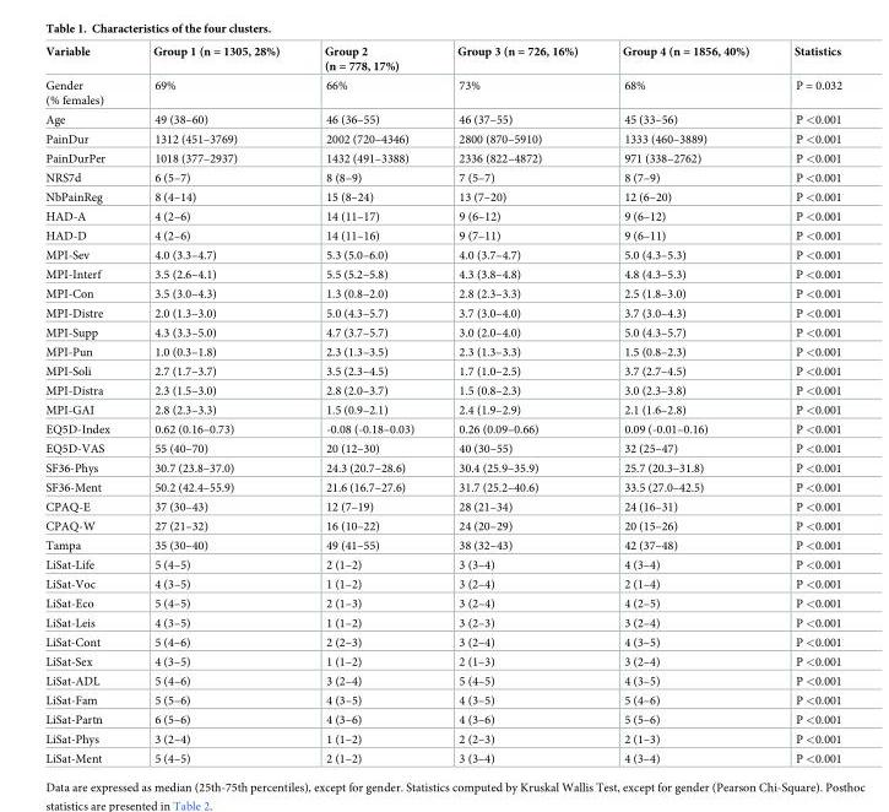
<table><thead><tr><td>Variable</td><td>Group 1 (n = 1305, 28%)</td><td>Group 2 (n = 778, 17%)</td><td>Group 3 (n = 726, 16%)</td><td>Group 4 (n = 1856, 40%)</td><td>Statistics</td></tr></thead><tbody><tr><td>Gender (% females)</td><td>69%</td><td>66%</td><td>73%</td><td>68%</td><td>P = 0.032</td></tr><tr><td>Age</td><td>49 (38–60)</td><td>46 (36–55)</td><td>46 (37–55)</td><td>45 (33–56)</td><td>P &lt;0.001</td></tr><tr><td>PainDur</td><td>1312 (451–3769)</td><td>2002 (720–4346)</td><td>2800 (870–5910)</td><td>1333 (460–3889)</td><td>P &lt;0.001</td></tr><tr><td>PainDurPer</td><td>1018 (377–2937)</td><td>1432 (491–3388)</td><td>2336 (822–4872)</td><td>971 (338–2762)</td><td>P &lt;0.001</td></tr><tr><td>NRS7d</td><td>6 (5–7)</td><td>8 (8–9)</td><td>7 (5–7)</td><td>8 (7–9)</td><td>P &lt;0.001</td></tr><tr><td>NbPainReg</td><td>8 (4–14)</td><td>15 (8–24)</td><td>13 (7–20)</td><td>12 (6–20)</td><td>P &lt;0.001</td></tr><tr><td>HAD-A</td><td>4 (2–6)</td><td>14 (11–17)</td><td>9 (6–12)</td><td>9 (6–12)</td><td>P &lt;0.001</td></tr><tr><td>HAD-D</td><td>4 (2–6)</td><td>14 (11–16)</td><td>9 (7–11)</td><td>9 (6–11)</td><td>P &lt;0.001</td></tr><tr><td>MPI-Sev</td><td>4.0 (3.3–4.7)</td><td>5.3 (5.0–6.0)</td><td>4.0 (3.7–4.7)</td><td>5.0 (4.3–5.3)</td><td>P &lt;0.001</td></tr><tr><td>MPI-Interf</td><td>3.5 (2.6–4.1)</td><td>5.5 (5.2–5.8)</td><td>4.3 (3.8–4.8)</td><td>4.8 (4.3–5.3)</td><td>P &lt;0.001</td></tr><tr><td>MPI-Con</td><td>3.5 (3.0–4.3)</td><td>1.3 (0.8–2.0)</td><td>2.8 (2.3–3.3)</td><td>2.5 (1.8–3.0)</td><td>P &lt;0.001</td></tr><tr><td>MPI-Distre</td><td>2.0 (1.3–3.0)</td><td>5.0 (4.3–5.7)</td><td>3.7 (3.0–4.0)</td><td>3.7 (3.0–4.3)</td><td>P &lt;0.001</td></tr><tr><td>MPI-Supp</td><td>4.3 (3.3–5.0)</td><td>4.7 (3.7–5.7)</td><td>3.0 (2.0–4.0)</td><td>5.0 (4.3–5.7)</td><td>P &lt;0.001</td></tr><tr><td>MPI-Pun</td><td>1.0 (0.3–1.8)</td><td>2.3 (1.3–3.5)</td><td>2.3 (1.3–3.3)</td><td>1.5 (0.8–2.3)</td><td>P &lt;0.001</td></tr><tr><td>MPI-Soli</td><td>2.7 (1.7–3.7)</td><td>3.5 (2.3–4.5)</td><td>1.7 (1.0–2.5)</td><td>3.7 (2.7–4.5)</td><td>P &lt;0.001</td></tr><tr><td>MPI-Distra</td><td>2.3 (1.5–3.0)</td><td>2.8 (2.0–3.7)</td><td>1.5 (0.8–2.3)</td><td>3.0 (2.3–3.8)</td><td>P &lt;0.001</td></tr><tr><td>MPI-GAI</td><td>2.8 (2.3–3.3)</td><td>1.5 (0.9–2.1)</td><td>2.4 (1.9–2.9)</td><td>2.1 (1.6–2.8)</td><td>P &lt;0.001</td></tr><tr><td>EQ5D-Index</td><td>0.62 (0.16–0.73)</td><td>-0.08 (-0.18–0.03)</td><td>0.26 (0.09–0.66)</td><td>0.09 (-0.01–0.16)</td><td>P &lt;0.001</td></tr><tr><td>EQ5D-VAS</td><td>55 (40–70)</td><td>20 (12–30)</td><td>40 (30–55)</td><td>32 (25–47)</td><td>P &lt;0.001</td></tr><tr><td>SF36-Phys</td><td>30.7 (23.8–37.0)</td><td>24.3 (20.7–28.6)</td><td>30.4 (25.9–35.9)</td><td>25.7 (20.3–31.8)</td><td>P &lt;0.001</td></tr><tr><td>SF36-Ment</td><td>50.2 (42.4–55.9)</td><td>21.6 (16.7–27.6)</td><td>31.7 (25.2–40.6)</td><td>33.5 (27.0–42.5)</td><td>P &lt;0.001</td></tr><tr><td>CPAQ-E</td><td>37 (30–43)</td><td>12 (7–19)</td><td>28 (21–34)</td><td>24 (16–31)</td><td>P &lt;0.001</td></tr><tr><td>CPAQ-W</td><td>27 (21–32)</td><td>16 (10–22)</td><td>24 (20–29)</td><td>20 (15–26)</td><td>P &lt;0.001</td></tr><tr><td>Tampa</td><td>35 (30–40)</td><td>49 (41–55)</td><td>38 (32–43)</td><td>42 (37–48)</td><td>P &lt;0.001</td></tr><tr><td>LiSat-Life</td><td>5 (4–5)</td><td>2 (1–2)</td><td>3 (3–4)</td><td>4 (3–4)</td><td>P &lt;0.001</td></tr><tr><td>LiSat-Voc</td><td>4 (3–5)</td><td>1 (1–2)</td><td>3 (2–4)</td><td>2 (1–4)</td><td>P &lt;0.001</td></tr><tr><td>LiSat-Eco</td><td>5 (4–5)</td><td>2 (1–3)</td><td>3 (2–4)</td><td>4 (2–5)</td><td>P &lt;0.001</td></tr><tr><td>LiSat-Leis</td><td>4 (3–5)</td><td>1 (1–2)</td><td>3 (2–3)</td><td>3 (2–4)</td><td>P &lt;0.001</td></tr><tr><td>LiSat-Cont</td><td>5 (4–6)</td><td>2 (2–3)</td><td>3 (2–4)</td><td>4 (3–5)</td><td>P &lt;0.001</td></tr><tr><td>LiSat-Sex</td><td>4 (3–5)</td><td>1 (1–2)</td><td>2 (1–3)</td><td>3 (2–4)</td><td>P &lt;0.001</td></tr><tr><td>LiSat-ADL</td><td>5 (4–6)</td><td>3 (2–4)</td><td>5 (4–5)</td><td>4 (3–5)</td><td>P &lt;0.001</td></tr><tr><td>LiSat-Fam</td><td>5 (5–6)</td><td>4 (3–5)</td><td>4 (3–5)</td><td>5 (4–6)</td><td>P &lt;0.001</td></tr><tr><td>LiSat-Partn</td><td>6 (5–6)</td><td>4 (3–6)</td><td>4 (3–6)</td><td>5 (5–6)</td><td>P &lt;0.001</td></tr><tr><td>LiSat-Phys</td><td>3 (2–4)</td><td>1 (1–2)</td><td>2 (2–3)</td><td>2 (1–3)</td><td>P &lt;0.001</td></tr><tr><td>LiSat-Ment</td><td>5 (4–5)</td><td>2 (1–2)</td><td>3 (3–4)</td><td>4 (3–4)</td><td>P &lt;0.001</td></tr></tbody></table>